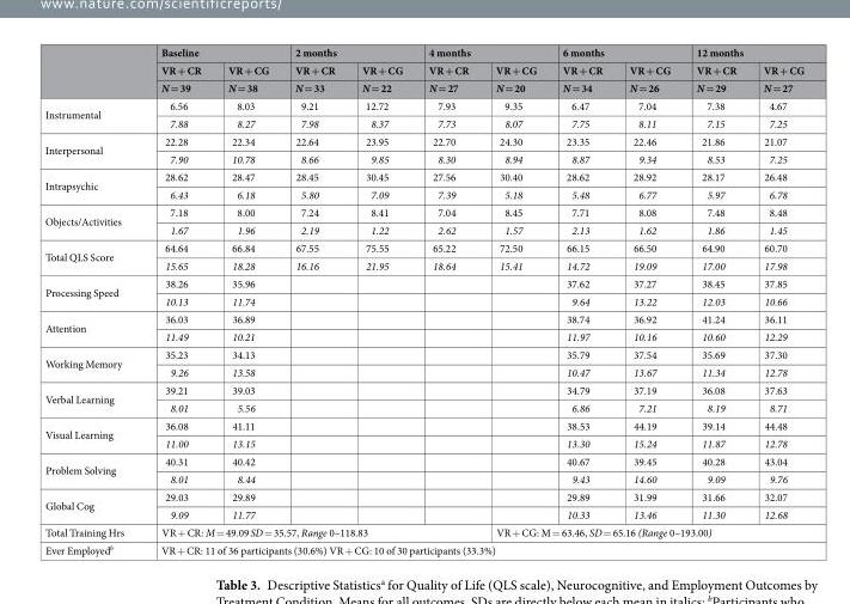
<table><thead><tr><td rowspan="3"></td><td colspan="2">Baseline</td><td colspan="2">2 months</td><td colspan="2">4 months</td><td colspan="2">6 months</td><td colspan="2">12 months</td></tr><tr><td rowspan="2">VR + CR N = 39</td><td rowspan="2">VR + CG N = 38</td><td rowspan="2">VR + CR N = 33</td><td rowspan="2">VR + CG N = 22</td><td rowspan="2">VR + CR N = 27</td><td rowspan="2">VR + CG N = 20</td><td rowspan="2">VR + CR N = 34</td><td rowspan="2">VR + CG N = 26</td><td rowspan="2">VR + CR N = 29</td><td rowspan="2">VR + CG N = 27</td></tr><tr></tr></thead><tbody><tr><td rowspan="2">Instrumental</td><td>6.56</td><td>8.03</td><td>9.21</td><td>12.72</td><td>7.93</td><td>9.35</td><td>6.47</td><td>7.04</td><td>7.38</td><td>4.67</td></tr><tr><td>7.88</td><td>8.27</td><td>7.98</td><td>8.37</td><td>7.73</td><td>8.07</td><td>7.75</td><td>8.11</td><td>7.15</td><td>7.25</td></tr><tr><td rowspan="2">Interpersonal</td><td>22.28</td><td>22.34</td><td>22.64</td><td>23.95</td><td>22.70</td><td>24.30</td><td>23.35</td><td>22.46</td><td>21.86</td><td>21.07</td></tr><tr><td>7.90</td><td>10.78</td><td>8.66</td><td>9.85</td><td>8.30</td><td>8.94</td><td>8.87</td><td>9.34</td><td>8.53</td><td>7.25</td></tr><tr><td rowspan="2">Intrapsychic</td><td>28.62</td><td>28.47</td><td>28.45</td><td>30.45</td><td>27.56</td><td>30.40</td><td>28.62</td><td>28.92</td><td>28.17</td><td>26.48</td></tr><tr><td>6.43</td><td>6.18</td><td>5.80</td><td>7.09</td><td>7.39</td><td>5.18</td><td>5.48</td><td>6.77</td><td>5.97</td><td>6.78</td></tr><tr><td rowspan="2">Objects/Activities</td><td>7.18</td><td>8.00</td><td>7.24</td><td>8.41</td><td>7.04</td><td>8.45</td><td>7.71</td><td>8.08</td><td>7.48</td><td>8.48</td></tr><tr><td>1.67</td><td>1.96</td><td>2.19</td><td>1.22</td><td>2.62</td><td>1.57</td><td>2.13</td><td>1.62</td><td>1.86</td><td>1.45</td></tr><tr><td rowspan="2">Total QLS Score</td><td>64.64</td><td>66.84</td><td>67.55</td><td>75.55</td><td>65.22</td><td>72.50</td><td>66.15</td><td>66.50</td><td>64.90</td><td>60.70</td></tr><tr><td>15.65</td><td>18.28</td><td>16.16</td><td>21.95</td><td>18.64</td><td>15.41</td><td>14.72</td><td>19.09</td><td>17.00</td><td>17.98</td></tr><tr><td rowspan="2">Processing Speed</td><td>38.26</td><td>35.96</td><td></td><td></td><td></td><td></td><td>37.62</td><td>37.27</td><td>38.45</td><td>37.85</td></tr><tr><td>10.13</td><td>11.74</td><td></td><td></td><td></td><td></td><td>9.64</td><td>13.22</td><td>12.03</td><td>10.66</td></tr><tr><td rowspan="2">Attention</td><td>36.03</td><td>36.89</td><td></td><td></td><td></td><td></td><td>38.74</td><td>36.92</td><td>41.24</td><td>36.11</td></tr><tr><td>11.49</td><td>10.21</td><td></td><td></td><td></td><td></td><td>11.97</td><td>10.16</td><td>10.60</td><td>12.29</td></tr><tr><td rowspan="2">Working Memory</td><td>35.23</td><td>34.13</td><td></td><td></td><td></td><td></td><td>35.79</td><td>37.54</td><td>35.69</td><td>37.30</td></tr><tr><td>9.26</td><td>13.58</td><td></td><td></td><td></td><td></td><td>10.47</td><td>13.67</td><td>11.34</td><td>12.78</td></tr><tr><td rowspan="2">Verbal Learning</td><td>39.21</td><td>39.03</td><td></td><td></td><td></td><td></td><td>34.79</td><td>37.19</td><td>36.08</td><td>37.63</td></tr><tr><td>8.01</td><td>5.56</td><td></td><td></td><td></td><td></td><td>6.86</td><td>7.21</td><td>8.19</td><td>8.71</td></tr><tr><td rowspan="2">Visual Learning</td><td>36.08</td><td>41.11</td><td></td><td></td><td></td><td></td><td>38.53</td><td>44.19</td><td>39.14</td><td>44.48</td></tr><tr><td>11.00</td><td>13.15</td><td></td><td></td><td></td><td></td><td>13.30</td><td>15.24</td><td>11.87</td><td>12.78</td></tr><tr><td rowspan="2">Problem Solving</td><td>40.31</td><td>40.42</td><td></td><td></td><td></td><td></td><td>40.67</td><td>39.45</td><td>40.28</td><td>43.04</td></tr><tr><td>8.01</td><td>8.44</td><td></td><td></td><td></td><td></td><td>9.43</td><td>14.60</td><td>9.09</td><td>9.76</td></tr><tr><td rowspan="2">Global Cog</td><td>29.03</td><td>29.89</td><td></td><td></td><td></td><td></td><td>29.89</td><td>31.99</td><td>31.66</td><td>32.07</td></tr><tr><td>9.09</td><td>11.77</td><td></td><td></td><td></td><td></td><td>10.33</td><td>13.46</td><td>11.30</td><td>12.68</td></tr><tr><td>Total Training Hrs</td><td colspan="5">VR + CR: M = 49.09 SD = 35.57, Range 0–118.83</td><td colspan="5">VR + CG: M = 63.46, SD = 65.16 (Range 0–193.00)</td></tr><tr><td>Ever Employed<sup>b</sup></td><td colspan="10">VR + CR: 11 of 36 participants (30.6%) VR + CG: 10 of 30 participants (33.3%)</td></tr></tbody></table>